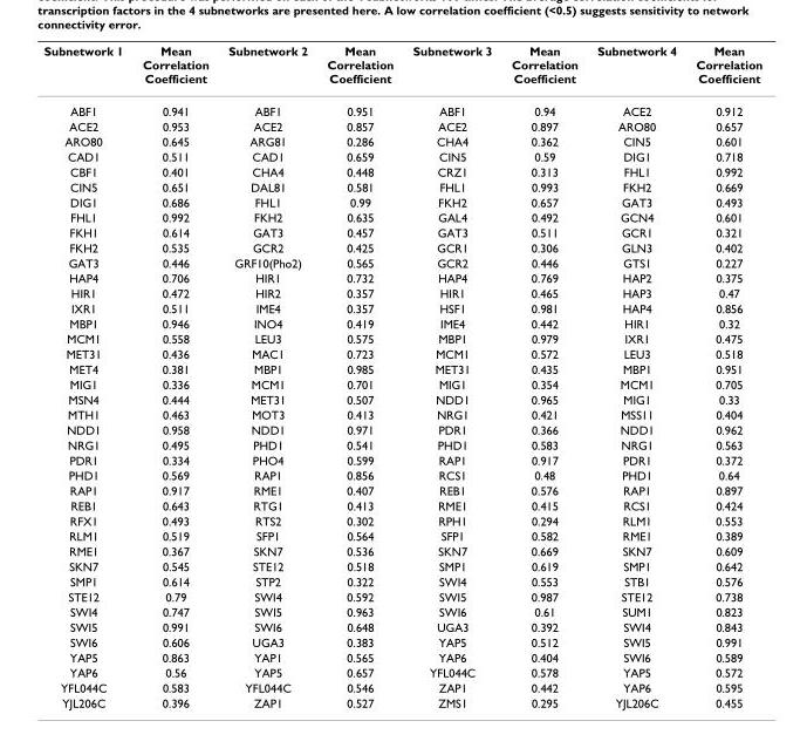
<table><thead><tr><td>Subnetwork 1</td><td>Mean Correlation Coefficient</td><td>Subnetwork 2</td><td>Mean Correlation Coefficient</td><td>Subnetwork 3</td><td>Mean Correlation Coefficient</td><td>Subnetwork 4</td><td>Mean Correlation Coefficient</td></tr></thead><tbody><tr><td>ABF1</td><td>0.941</td><td>ABF1</td><td>0.951</td><td>ABF1</td><td>0.94</td><td>ACE2</td><td>0.912</td></tr><tr><td>ACE2</td><td>0.953</td><td>ACE2</td><td>0.857</td><td>ACE2</td><td>0.897</td><td>ARO80</td><td>0.657</td></tr><tr><td>ARO80</td><td>0.645</td><td>ARG81</td><td>0.286</td><td>CHA4</td><td>0.362</td><td>CIN5</td><td>0.601</td></tr><tr><td>CAD1</td><td>0.511</td><td>CAD1</td><td>0.659</td><td>CIN5</td><td>0.59</td><td>DIG1</td><td>0.718</td></tr><tr><td>CBF1</td><td>0.401</td><td>CHA4</td><td>0.448</td><td>CRZ1</td><td>0.313</td><td>FHL1</td><td>0.992</td></tr><tr><td>CIN5</td><td>0.651</td><td>DAL81</td><td>0.581</td><td>FHL1</td><td>0.993</td><td>FKH2</td><td>0.669</td></tr><tr><td>DIG1</td><td>0.686</td><td>FHL1</td><td>0.99</td><td>FKH2</td><td>0.657</td><td>GAT3</td><td>0.493</td></tr><tr><td>FHL1</td><td>0.992</td><td>FKH2</td><td>0.635</td><td>GAL4</td><td>0.492</td><td>GCN4</td><td>0.601</td></tr><tr><td>FKH1</td><td>0.614</td><td>GAT3</td><td>0.457</td><td>GAT3</td><td>0.511</td><td>GCR1</td><td>0.321</td></tr><tr><td>FKH2</td><td>0.535</td><td>GCR2</td><td>0.425</td><td>GCR1</td><td>0.306</td><td>GLN3</td><td>0.402</td></tr><tr><td>GAT3</td><td>0.446</td><td>GRF10(Pho2)</td><td>0.565</td><td>GCR2</td><td>0.446</td><td>GTS1</td><td>0.227</td></tr><tr><td>HAP4</td><td>0.706</td><td>HIR1</td><td>0.732</td><td>HAP4</td><td>0.769</td><td>HAP2</td><td>0.375</td></tr><tr><td>HIR1</td><td>0.472</td><td>HIR2</td><td>0.357</td><td>HIR1</td><td>0.465</td><td>HAP3</td><td>0.47</td></tr><tr><td>IXR1</td><td>0.511</td><td>IME4</td><td>0.357</td><td>HSF1</td><td>0.981</td><td>HAP4</td><td>0.856</td></tr><tr><td>MBP1</td><td>0.946</td><td>INO4</td><td>0.419</td><td>IME4</td><td>0.442</td><td>HIR1</td><td>0.32</td></tr><tr><td>MCM1</td><td>0.558</td><td>LEU3</td><td>0.575</td><td>MBP1</td><td>0.979</td><td>IXR1</td><td>0.475</td></tr><tr><td>MET31</td><td>0.436</td><td>MAC1</td><td>0.723</td><td>MCM1</td><td>0.572</td><td>LEU3</td><td>0.518</td></tr><tr><td>MET4</td><td>0.381</td><td>MBP1</td><td>0.985</td><td>MET31</td><td>0.435</td><td>MBP1</td><td>0.951</td></tr><tr><td>MIG1</td><td>0.336</td><td>MCM1</td><td>0.701</td><td>MIG1</td><td>0.354</td><td>MCM1</td><td>0.705</td></tr><tr><td>MSN4</td><td>0.444</td><td>MET31</td><td>0.507</td><td>NDD1</td><td>0.965</td><td>MIG1</td><td>0.33</td></tr><tr><td>MTH1</td><td>0.463</td><td>MOT3</td><td>0.413</td><td>NRG1</td><td>0.421</td><td>MSS11</td><td>0.404</td></tr><tr><td>NDD1</td><td>0.958</td><td>NDD1</td><td>0.971</td><td>PDR1</td><td>0.366</td><td>NDD1</td><td>0.962</td></tr><tr><td>NRG1</td><td>0.495</td><td>PHD1</td><td>0.541</td><td>PHD1</td><td>0.583</td><td>NRG1</td><td>0.563</td></tr><tr><td>PDR1</td><td>0.334</td><td>PHO4</td><td>0.599</td><td>RAP1</td><td>0.917</td><td>PDR1</td><td>0.372</td></tr><tr><td>PHD1</td><td>0.569</td><td>RAP1</td><td>0.856</td><td>RCS1</td><td>0.48</td><td>PHD1</td><td>0.64</td></tr><tr><td>RAP1</td><td>0.917</td><td>RME1</td><td>0.407</td><td>REB1</td><td>0.576</td><td>RAP1</td><td>0.897</td></tr><tr><td>REB1</td><td>0.643</td><td>RTG1</td><td>0.413</td><td>RME1</td><td>0.415</td><td>RCS1</td><td>0.424</td></tr><tr><td>RFX1</td><td>0.493</td><td>RTS2</td><td>0.302</td><td>RPH1</td><td>0.294</td><td>RLM1</td><td>0.553</td></tr><tr><td>RLM1</td><td>0.519</td><td>SFP1</td><td>0.564</td><td>SFP1</td><td>0.582</td><td>RME1</td><td>0.389</td></tr><tr><td>RME1</td><td>0.367</td><td>SKN7</td><td>0.536</td><td>SKN7</td><td>0.669</td><td>SKN7</td><td>0.609</td></tr><tr><td>SKN7</td><td>0.545</td><td>STE12</td><td>0.518</td><td>SMP1</td><td>0.619</td><td>SMP1</td><td>0.642</td></tr><tr><td>SMP1</td><td>0.614</td><td>STP2</td><td>0.322</td><td>SWI4</td><td>0.553</td><td>STB1</td><td>0.576</td></tr><tr><td>STE12</td><td>0.79</td><td>SWI4</td><td>0.592</td><td>SWI5</td><td>0.987</td><td>STE12</td><td>0.738</td></tr><tr><td>SWI4</td><td>0.747</td><td>SWI5</td><td>0.963</td><td>SWI6</td><td>0.61</td><td>SUM1</td><td>0.823</td></tr><tr><td>SWI5</td><td>0.991</td><td>SWI6</td><td>0.648</td><td>UGA3</td><td>0.392</td><td>SWI4</td><td>0.843</td></tr><tr><td>SWI6</td><td>0.606</td><td>UGA3</td><td>0.383</td><td>YAP5</td><td>0.512</td><td>SWI5</td><td>0.991</td></tr><tr><td>YAP5</td><td>0.863</td><td>YAP1</td><td>0.565</td><td>YAP6</td><td>0.404</td><td>SWI6</td><td>0.589</td></tr><tr><td>YAP6</td><td>0.56</td><td>YAP5</td><td>0.657</td><td>YFL044C</td><td>0.578</td><td>YAP5</td><td>0.572</td></tr><tr><td>YFL044C</td><td>0.583</td><td>YFL044C</td><td>0.546</td><td>ZAP1</td><td>0.442</td><td>YAP6</td><td>0.595</td></tr><tr><td>YJL206C</td><td>0.396</td><td>ZAP1</td><td>0.527</td><td>ZMS1</td><td>0.295</td><td>YJL206C</td><td>0.455</td></tr></tbody></table>